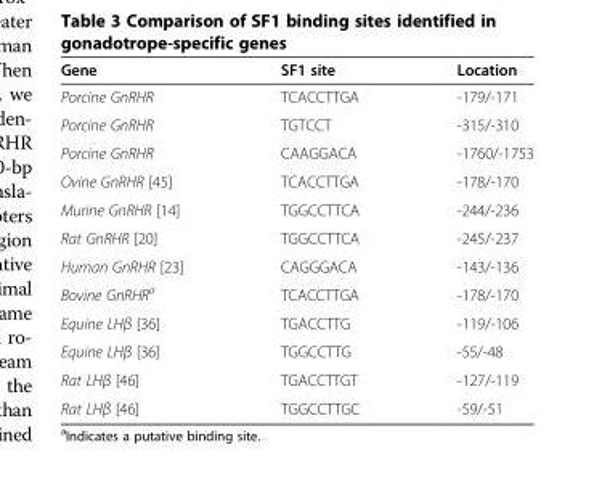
<table><thead><tr><td>Gene</td><td>SF1 site</td><td>Location</td></tr></thead><tbody><tr><td>Porcine GnRHR</td><td>TCACCTTGA</td><td>-179/-171</td></tr><tr><td>Porcine GnRHR</td><td>TGTCCT</td><td>-315/-310</td></tr><tr><td>Porcine GnRHR</td><td>CAAGGACA</td><td>-1760/-1753</td></tr><tr><td>Ovine GnRHR [45]</td><td>TCACCTTGA</td><td>-178/-170</td></tr><tr><td>Murine GnRHR [14]</td><td>TGGCCTTCA</td><td>-244/-236</td></tr><tr><td>Rat GnRHR [20]</td><td>TGGCCTTCA</td><td>-245/-237</td></tr><tr><td>Human GnRHR [23]</td><td>CAGGGACA</td><td>-143/-136</td></tr><tr><td>Bovine GnRHR<sup>a</sup></td><td>TCACCTTGA</td><td>-178/-170</td></tr><tr><td>Equine LHβ [36]</td><td>TGACCTTG</td><td>-119/-106</td></tr><tr><td>Equine LHβ [36]</td><td>TGGCCTTG</td><td>-55/-48</td></tr><tr><td>Rat LHβ [46]</td><td>TGACCTTGT</td><td>-127/-119</td></tr><tr><td>Rat LHβ [46]</td><td>TGGCCTTGC</td><td>-59/-51</td></tr></tbody></table>